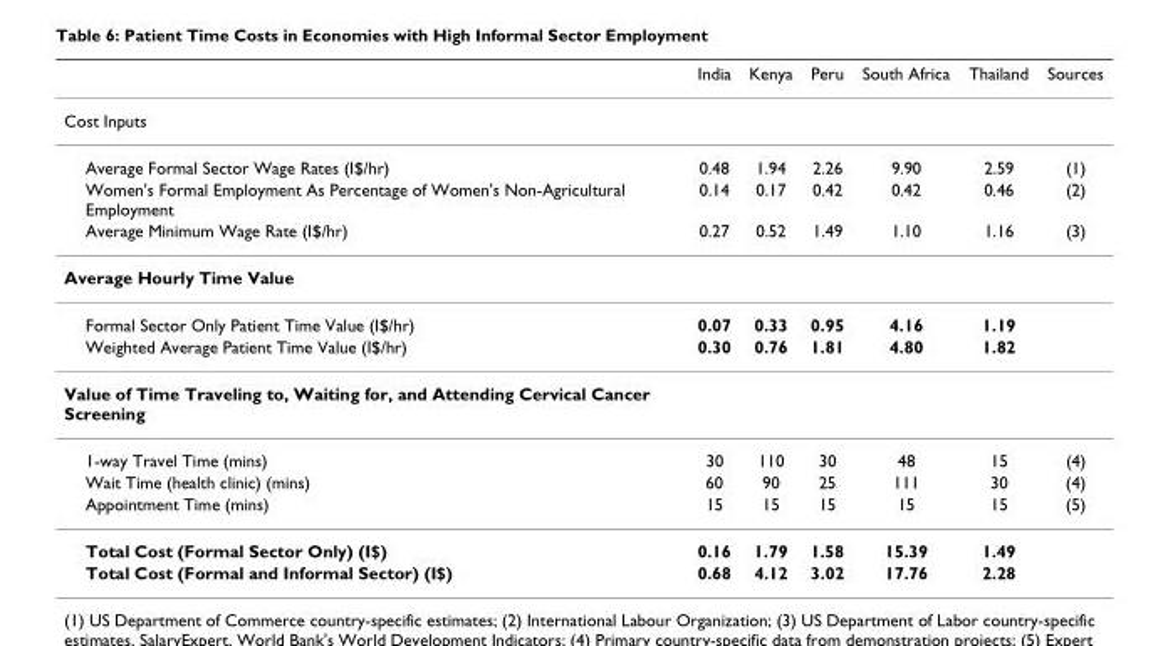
<table><thead><tr><td></td><td>India</td><td>Kenya</td><td>Peru</td><td>South Africa</td><td>Thailand</td><td>Sources</td></tr></thead><tbody><tr><td colspan="7">Cost Inputs</td></tr><tr><td>Average Formal Sector Wage Rates (I$/hr)</td><td>0.48</td><td>1.94</td><td>2.26</td><td>9.90</td><td>2.59</td><td>(1)</td></tr><tr><td>Women&#x27;s Formal Employment As Percentage of Women&#x27;s Non-Agricultural Employment</td><td>0.14</td><td>0.17</td><td>0.42</td><td>0.42</td><td>0.46</td><td>(2)</td></tr><tr><td>Average Minimum Wage Rate (I$/hr)</td><td>0.27</td><td>0.52</td><td>1.49</td><td>1.10</td><td>1.16</td><td>(3)</td></tr><tr><td colspan="7">Average Hourly Time Value</td></tr><tr><td>Formal Sector Only Patient Time Value (I$/hr)</td><td>0.07</td><td>0.33</td><td>0.95</td><td>4.16</td><td>1.19</td><td></td></tr><tr><td>Weighted Average Patient Time Value (I$/hr)</td><td>0.30</td><td>0.76</td><td>1.81</td><td>4.80</td><td>1.82</td><td></td></tr><tr><td colspan="7">Value of Time Traveling to, Waiting for, and Attending Cervical Cancer Screening</td></tr><tr><td>1-way Travel Time (mins)</td><td>30</td><td>110</td><td>30</td><td>48</td><td>15</td><td>(4)</td></tr><tr><td>Wait Time (health clinic) (mins)</td><td>60</td><td>90</td><td>25</td><td>111</td><td>30</td><td>(4)</td></tr><tr><td>Appointment Time (mins)</td><td>15</td><td>15</td><td>15</td><td>15</td><td>15</td><td>(5)</td></tr><tr><td>Total Cost (Formal Sector Only) (I$)</td><td>0.16</td><td>1.79</td><td>1.58</td><td>15.39</td><td>1.49</td><td></td></tr><tr><td>Total Cost (Formal and Informal Sector) (I$)</td><td>0.68</td><td>4.12</td><td>3.02</td><td>17.76</td><td>2.28</td><td></td></tr></tbody></table>